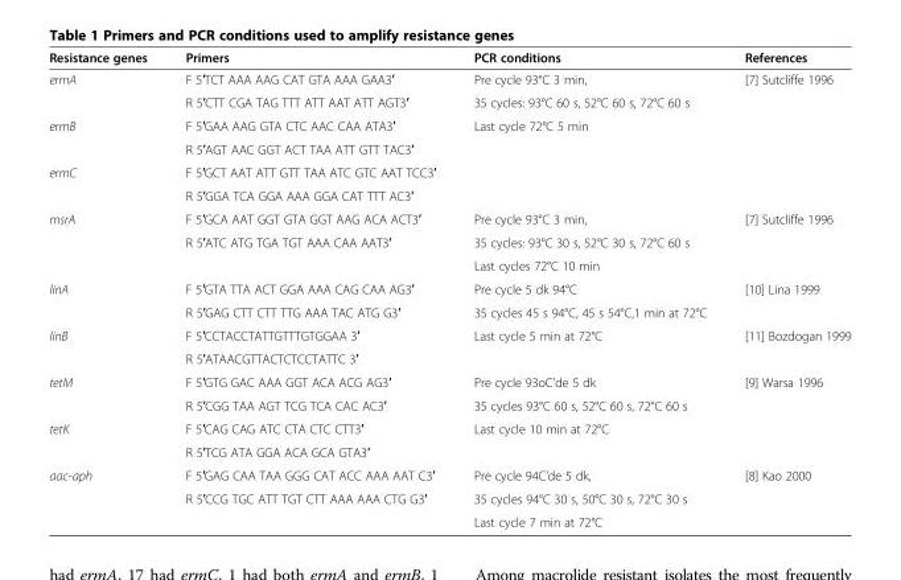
<table><thead><tr><td>Resistance genes</td><td>Primers</td><td>PCR conditions</td><td>References</td></tr></thead><tbody><tr><td rowspan="2">ermA</td><td>F 5′TCT AAA AAG CAT GTA AAA GAA3′</td><td>Pre cycle 93°C 3 min,</td><td rowspan="6">[7] Sutcliffe 1996</td></tr><tr><td>R 5′CTT CGA TAG TTT ATT AAT ATT AGT3′</td><td>35 cycles: 93°C 60 s, 52°C 60 s, 72°C 60 s</td></tr><tr><td rowspan="2">ermB</td><td>F 5′GAA AAG GTA CTC AAC CAA ATA3′</td><td rowspan="4">Last cycle 72°C 5 min</td></tr><tr><td>R 5′AGT AAC GGT ACT TAA ATT GTT TAC3′</td></tr><tr><td rowspan="2">ermC</td><td>F 5′GCT AAT ATT GTT TAA ATC GTC AAT TCC3′</td></tr><tr><td>R 5′GGA TCA GGA AAA GGA CAT TTT AC3′</td></tr><tr><td rowspan="3">msrA</td><td>F 5′GCA AAT GGT GTA GGT AAG ACA ACT3′</td><td>Pre cycle 93°C 3 min,</td><td rowspan="3">[7] Sutcliffe 1996</td></tr><tr><td rowspan="2">R 5′ATC ATG TGA TGT AAA CAA AAT3′</td><td>35 cycles: 93°C 30 s, 52°C 30 s, 72°C 60 s</td></tr><tr><td>Last cycles 72°C 10 min</td></tr><tr><td rowspan="2">linA</td><td>F 5′GTA TTA ACT GGA AAA CAG CAA AG3′</td><td>Pre cycle 5 dk 94°C</td><td rowspan="2">[10] Lina 1999</td></tr><tr><td>R 5′GAG CTT CTT TTG AAA TAC ATG G3′</td><td>35 cycles 45 s 94°C, 45 s 54°C,1 min at 72°C</td></tr><tr><td rowspan="2">linB</td><td>F 5′CCTACCTATTGTTTGTGGAA 3′</td><td rowspan="2">Last cycle 5 min at 72°C</td><td rowspan="2">[11] Bozdogan 1999</td></tr><tr><td>R 5′ATAACGTTACTCTCCTATTC 3′</td></tr><tr><td rowspan="2">tetM</td><td>F 5′GTG GAC AAA GGT ACA ACG AG3′</td><td>Pre cycle 93oC’de 5 dk</td><td rowspan="4">[9] Warsa 1996</td></tr><tr><td>R 5′CGG TAA AGT TCG TCA CAC AC3′</td><td>35 cycles 93°C 60 s, 52°C 60 s, 72°C 60 s</td></tr><tr><td rowspan="2">tetK</td><td>F 5′CAG CAG ATC CTA CTC CTT3′</td><td rowspan="2">Last cycle 10 min at 72°C</td></tr><tr><td>R 5′TCG ATA GGA ACA GCA GTA3′</td></tr><tr><td rowspan="3">aac-aph</td><td>F 5′GAG CAA TAA GGG CAT ACC AAA AAT C3′</td><td>Pre cycle 94C’de 5 dk,</td><td rowspan="3">[8] Kao 2000</td></tr><tr><td rowspan="2">R 5′CCG TGC ATT TGT CTT AAA AAA CTG G3′</td><td>35 cycles 94°C 30 s, 50°C 30 s, 72°C 30 s</td></tr><tr><td>Last cycle 7 min at 72°C</td></tr></tbody></table>